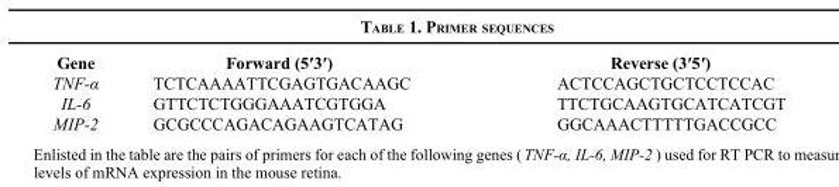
<table><thead><tr><td>Gene</td><td>Forward (5′3′)</td><td>Reverse (3′5′)</td></tr></thead><tbody><tr><td>TNF-α</td><td>TCTCAAAATTCGAGTGACAAGC</td><td>ACTCCAGCTGCTCCTCCAC</td></tr><tr><td>IL-6</td><td>GTTCTCTGGGAAATCGTGGA</td><td>TTCTGCAAGTGCATCATCGT</td></tr><tr><td>MIP-2</td><td>GCGCCCAGACAGAAGTCATAG</td><td>GGCAAACTTTTTGACCGCC</td></tr></tbody></table>